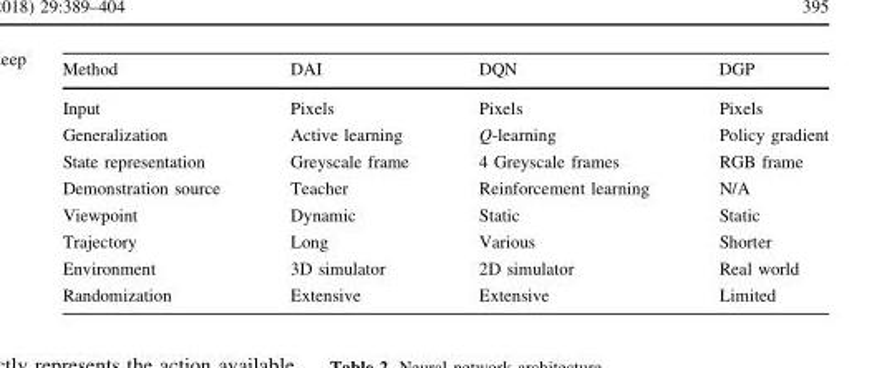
<table><thead><tr><td>Method</td><td>DAI</td><td>DQN</td><td>DGP</td></tr></thead><tbody><tr><td>Input</td><td>Pixels</td><td>Pixels</td><td>Pixels</td></tr><tr><td>Generalization</td><td>Active learning</td><td>Q-learning</td><td>Policy gradient</td></tr><tr><td>State representation</td><td>Greyscale frame</td><td>4 Greyscale frames</td><td>RGB frame</td></tr><tr><td>Demonstration source</td><td>Teacher</td><td>Reinforcement learning</td><td>N/A</td></tr><tr><td>Viewpoint</td><td>Dynamic</td><td>Static</td><td>Static</td></tr><tr><td>Trajectory</td><td>Long</td><td>Various</td><td>Shorter</td></tr><tr><td>Environment</td><td>3D simulator</td><td>2D simulator</td><td>Real world</td></tr><tr><td>Randomization</td><td>Extensive</td><td>Extensive</td><td>Limited</td></tr></tbody></table>